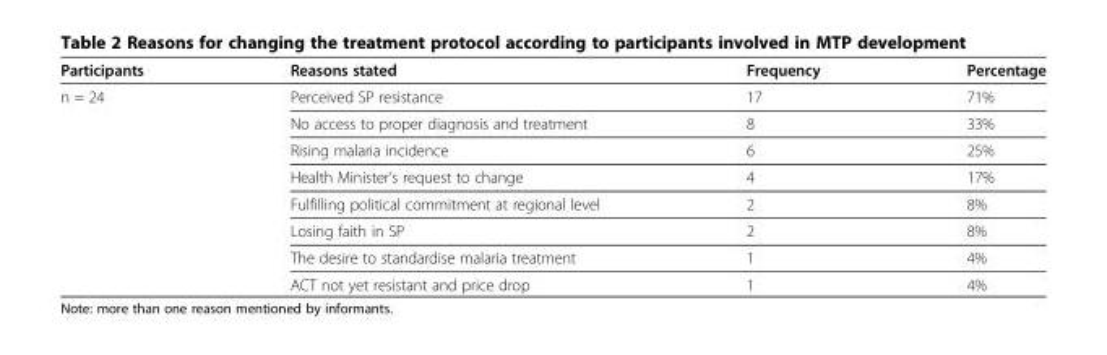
<table><thead><tr><td>Participants</td><td>Reasons stated</td><td>Frequency</td><td>Percentage</td></tr></thead><tbody><tr><td rowspan="8">n = 24</td><td>Perceived SP resistance</td><td>17</td><td>71%</td></tr><tr><td>No access to proper diagnosis and treatment</td><td>8</td><td>33%</td></tr><tr><td>Rising malaria incidence</td><td>6</td><td>25%</td></tr><tr><td>Health Minister’s request to change</td><td>4</td><td>17%</td></tr><tr><td>Fulfilling political commitment at regional level</td><td>2</td><td>8%</td></tr><tr><td>Losing faith in SP</td><td>2</td><td>8%</td></tr><tr><td>The desire to standardise malaria treatment</td><td>1</td><td>4%</td></tr><tr><td>ACT not yet resistant and price drop</td><td>1</td><td>4%</td></tr></tbody></table>